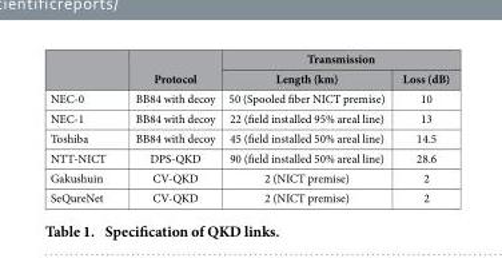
<table><thead><tr><td rowspan="2"></td><td rowspan="2">Protocol</td><td colspan="2">Transmission</td></tr><tr><td>Length (km)</td><td>Loss (dB)</td></tr></thead><tbody><tr><td>NEC-0</td><td>BB84 with decoy</td><td>50 (Spooled fiber NICT premise)</td><td>10</td></tr><tr><td>NEC-1</td><td>BB84 with decoy</td><td>22 (field installed 95% areal line)</td><td>13</td></tr><tr><td>Toshiba</td><td>BB84 with decoy</td><td>45 (field installed 50% areal line)</td><td>14.5</td></tr><tr><td>NTT-NICT</td><td>DPS-QKD</td><td>90 (field installed 50% areal line)</td><td>28.6</td></tr><tr><td>Gakushuin</td><td>CV-QKD</td><td>2 (NICT premise)</td><td>2</td></tr><tr><td>SeQureNet</td><td>CV-QKD</td><td>2 (NICT premise)</td><td>2</td></tr></tbody></table>